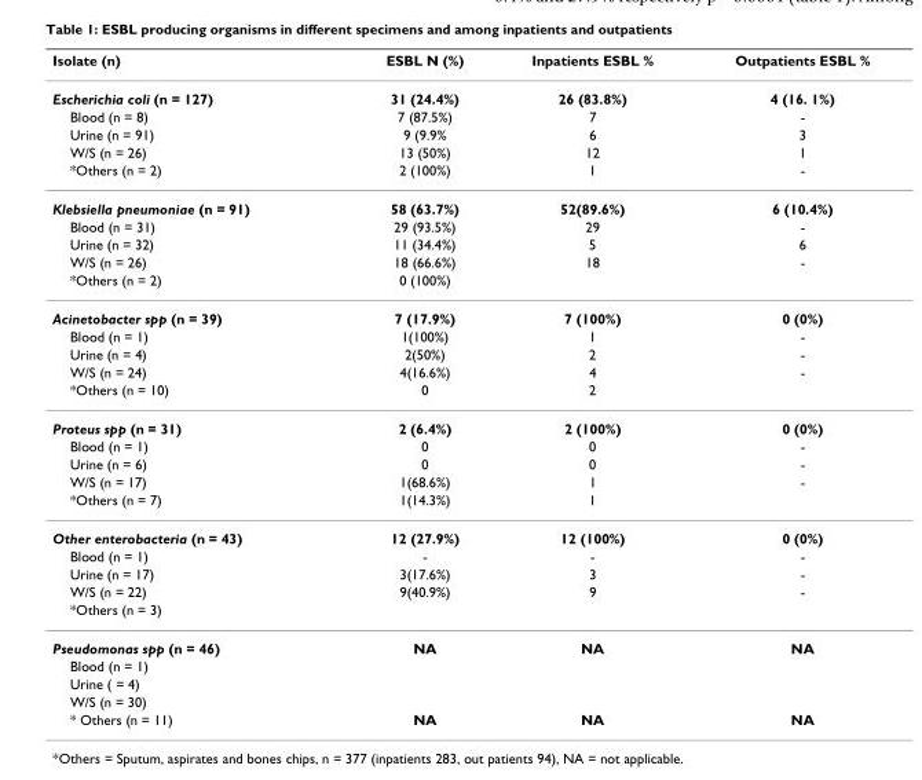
<table><thead><tr><td>Isolate (n)</td><td>ESBL N (%)</td><td>Inpatients ESBL %</td><td>Outpatients ESBL %</td></tr></thead><tbody><tr><td>Escherichia coli (n = 127)</td><td>31 (24.4%)</td><td>26 (83.8%)</td><td>4 (16. 1%)</td></tr><tr><td>Blood (n = 8)</td><td>7 (87.5%)</td><td>7</td><td>-</td></tr><tr><td>Urine (n = 91)</td><td>9 (9.9%</td><td>6</td><td>3</td></tr><tr><td>W/S (n = 26)</td><td>13 (50%)</td><td>12</td><td>1</td></tr><tr><td>*Others (n = 2)</td><td>2 (100%)</td><td>1</td><td>-</td></tr><tr><td>Klebsiella pneumoniae (n = 91)</td><td>58 (63.7%)</td><td>52(89.6%)</td><td>6 (10.4%)</td></tr><tr><td>Blood (n = 31)</td><td>29 (93.5%)</td><td>29</td><td>-</td></tr><tr><td>Urine (n = 32)</td><td>11 (34.4%)</td><td>5</td><td>6</td></tr><tr><td>W/S (n = 26)</td><td>18 (66.6%)</td><td>18</td><td>-</td></tr><tr><td>*Others (n = 2)</td><td>0 (100%)</td><td></td><td></td></tr><tr><td>Acinetobacter spp (n = 39)</td><td>7 (17.9%)</td><td>7 (100%)</td><td>0 (0%)</td></tr><tr><td>Blood (n = 1)</td><td>1(100%)</td><td>1</td><td>-</td></tr><tr><td>Urine (n = 4)</td><td>2(50%)</td><td>2</td><td>-</td></tr><tr><td>W/S (n = 24)</td><td>4(16.6%)</td><td>4</td><td>-</td></tr><tr><td>*Others (n = 10)</td><td>0</td><td>2</td><td></td></tr><tr><td>Proteus spp (n = 31)</td><td>2 (6.4%)</td><td>2 (100%)</td><td>0 (0%)</td></tr><tr><td>Blood (n = 1)</td><td>0</td><td>0</td><td>-</td></tr><tr><td>Urine (n = 6)</td><td>0</td><td>0</td><td>-</td></tr><tr><td>W/S (n = 17)</td><td>1(68.6%)</td><td>1</td><td>-</td></tr><tr><td>*Others (n = 7)</td><td>1(14.3%)</td><td>1</td><td></td></tr><tr><td>Other enterobacteria (n = 43)</td><td>12 (27.9%)</td><td>12 (100%)</td><td>0 (0%)</td></tr><tr><td>Blood (n = 1)</td><td>-</td><td>-</td><td>-</td></tr><tr><td>Urine (n = 17)</td><td>3(17.6%)</td><td>3</td><td>-</td></tr><tr><td>W/S (n = 22)</td><td>9(40.9%)</td><td>9</td><td>-</td></tr><tr><td colspan="4">*Others (n = 3)</td></tr><tr><td>Pseudomonas spp (n = 46)</td><td>NA</td><td>NA</td><td>NA</td></tr><tr><td colspan="4">Blood (n = 1)</td></tr><tr><td colspan="4">Urine ( = 4)</td></tr><tr><td colspan="4">W/S (n = 30)</td></tr><tr><td>* Others (n = 11)</td><td>NA</td><td>NA</td><td>NA</td></tr></tbody></table>